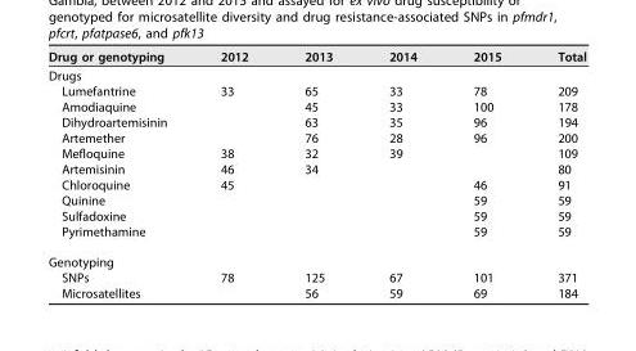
<table><thead><tr><td>Drug or genotyping</td><td>2012</td><td>2013</td><td>2014</td><td>2015</td><td>Total</td></tr></thead><tbody><tr><td colspan="6">Drugs</td></tr><tr><td>Lumefantrine</td><td>33</td><td>65</td><td>33</td><td>78</td><td>209</td></tr><tr><td>Amodiaquine</td><td></td><td>45</td><td>33</td><td>100</td><td>178</td></tr><tr><td>Dihydroartemisinin</td><td></td><td>63</td><td>35</td><td>96</td><td>194</td></tr><tr><td>Artemether</td><td></td><td>76</td><td>28</td><td>96</td><td>200</td></tr><tr><td>Mefloquine</td><td>38</td><td>32</td><td>39</td><td></td><td>109</td></tr><tr><td>Artemisinin</td><td>46</td><td>34</td><td></td><td></td><td>80</td></tr><tr><td>Chloroquine</td><td>45</td><td></td><td></td><td>46</td><td>91</td></tr><tr><td>Quinine</td><td></td><td></td><td></td><td>59</td><td>59</td></tr><tr><td>Sulfadoxine</td><td></td><td></td><td></td><td>59</td><td>59</td></tr><tr><td>Pyrimethamine</td><td></td><td></td><td></td><td>59</td><td>59</td></tr><tr><td colspan="6">Genotyping</td></tr><tr><td>SNPs</td><td>78</td><td>125</td><td>67</td><td>101</td><td>371</td></tr><tr><td>Microsatellites</td><td></td><td>56</td><td>59</td><td>69</td><td>184</td></tr></tbody></table>